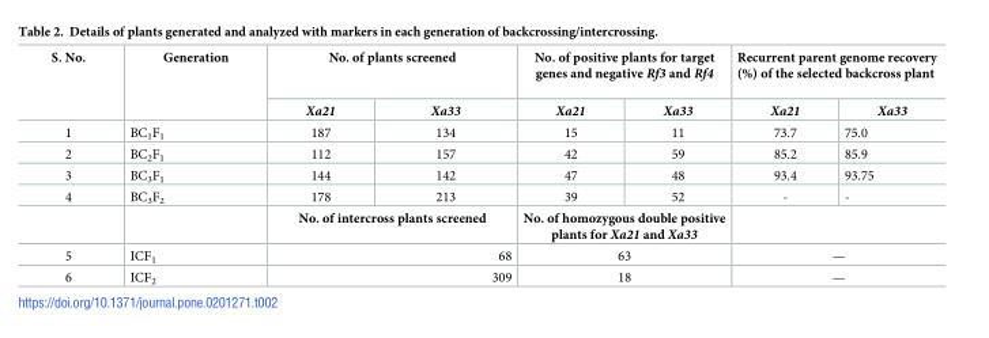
<table><tbody><tr><td rowspan="2">S. No.</td><td rowspan="2">Generation</td><td colspan="2">No. of plants screened</td><td colspan="2">No. of positive plants for target genes and negative Rf3 and Rf4</td><td colspan="2">Recurrent parent genome recovery (%) of the selected backcross plant</td></tr><tr><td>Xa21</td><td>Xa33</td><td>Xa21</td><td>Xa33</td><td>Xa21</td><td>Xa33</td></tr><tr><td>1</td><td>BC<sub>1</sub>F<sub>1</sub></td><td>187</td><td>134</td><td>15</td><td>11</td><td>73.7</td><td>75.0</td></tr><tr><td>2</td><td>BC<sub>2</sub>F<sub>1</sub></td><td>112</td><td>157</td><td>42</td><td>59</td><td>85.2</td><td>85.9</td></tr><tr><td>3</td><td>BC<sub>3</sub>F<sub>1</sub></td><td>144</td><td>142</td><td>47</td><td>48</td><td>93.4</td><td>93.75</td></tr><tr><td rowspan="2">4</td><td>BC<sub>3</sub>F<sub>2</sub></td><td>178</td><td>213</td><td>39</td><td>52</td><td>-</td><td>-</td></tr><tr><td></td><td colspan="2">No. of intercross plants screened</td><td colspan="2">No. of homozygous double positive plants for Xa21 and Xa33</td><td colspan="2"></td></tr><tr><td>5</td><td>ICF<sub>1</sub></td><td colspan="2">68</td><td colspan="2">63</td><td colspan="2">—</td></tr><tr><td>6</td><td>ICF<sub>2</sub></td><td colspan="2">309</td><td colspan="2">18</td><td colspan="2">—</td></tr></tbody></table>